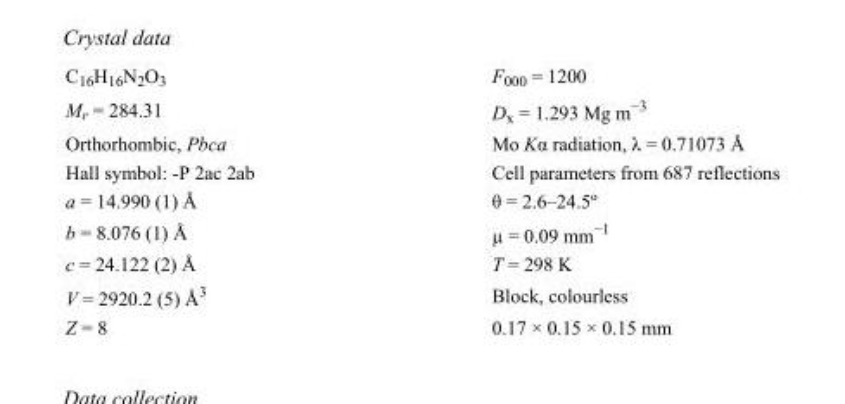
<table><tbody><tr><td>C<sub>16</sub>H<sub>16</sub>N<sub>2</sub>O<sub>3</sub></td><td>F000 = 1200</td></tr><tr><td>M<sub>r</sub> = 284.31</td><td>D<sub>x</sub> = 1.293 Mg m<sup>−3</sup></td></tr><tr><td>Orthorhombic, Pbca</td><td>Mo Kα radiation, λ = 0.71073 Å</td></tr><tr><td>Hall symbol: -P 2ac 2ab</td><td>Cell parameters from 687 reflections</td></tr><tr><td>a = 14.990 (1) Å</td><td>θ = 2.6–24.5º</td></tr><tr><td>b = 8.076 (1) Å</td><td>µ = 0.09 mm<sup>−1</sup></td></tr><tr><td>c = 24.122 (2) Å</td><td>T = 298 K</td></tr><tr><td>V = 2920.2 (5) Å<sup>3</sup></td><td>Block, colourless</td></tr><tr><td>Z = 8</td><td>0.17 × 0.15 × 0.15 mm</td></tr></tbody></table>